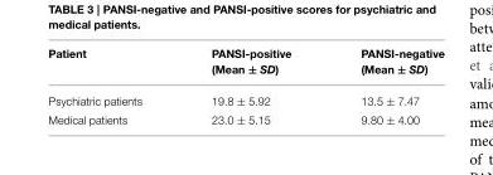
<table><thead><tr><td>Patient</td><td>PANSI-positive (Mean ± SD)</td><td>PANSI-negative (Mean ± SD)</td></tr></thead><tbody><tr><td>Psychiatric patients</td><td>19.8 ± 5.92</td><td>13.5 ± 7.47</td></tr><tr><td>Medical patients</td><td>23.0 ± 5.15</td><td>9.80 ± 4.00</td></tr></tbody></table>